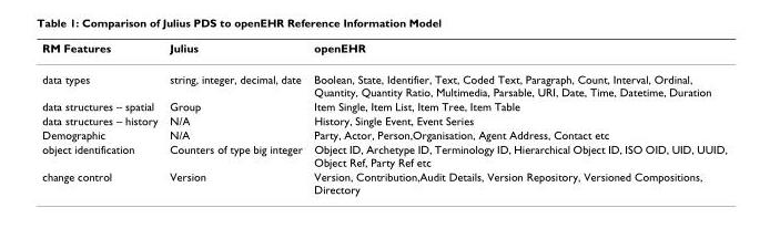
<table><thead><tr><td>RM Features</td><td>Julius</td><td>openEHR</td></tr></thead><tbody><tr><td>data types</td><td>string, integer, decimal, date</td><td>Boolean, State, Identifier, Text, Coded Text, Paragraph, Count, Interval, Ordinal, Quantity, Quantity Ratio, Multimedia, Parsable, URI, Date, Time, Datetime, Duration</td></tr><tr><td>data structures – spatial</td><td>Group</td><td>Item Single, Item List, Item Tree, Item Table</td></tr><tr><td>data structures – history</td><td>N/A</td><td>History, Single Event, Event Series</td></tr><tr><td>Demographic</td><td>N/A</td><td>Party, Actor, Person,Organisation, Agent Address, Contact etc</td></tr><tr><td>object identification</td><td>Counters of type big integer</td><td>Object ID, Archetype ID, Terminology ID, Hierarchical Object ID, ISO OID, UID, UUID, Object Ref, Party Ref etc</td></tr><tr><td>change control</td><td>Version</td><td>Version, Contribution,Audit Details, Version Repository, Versioned Compositions, Directory</td></tr></tbody></table>